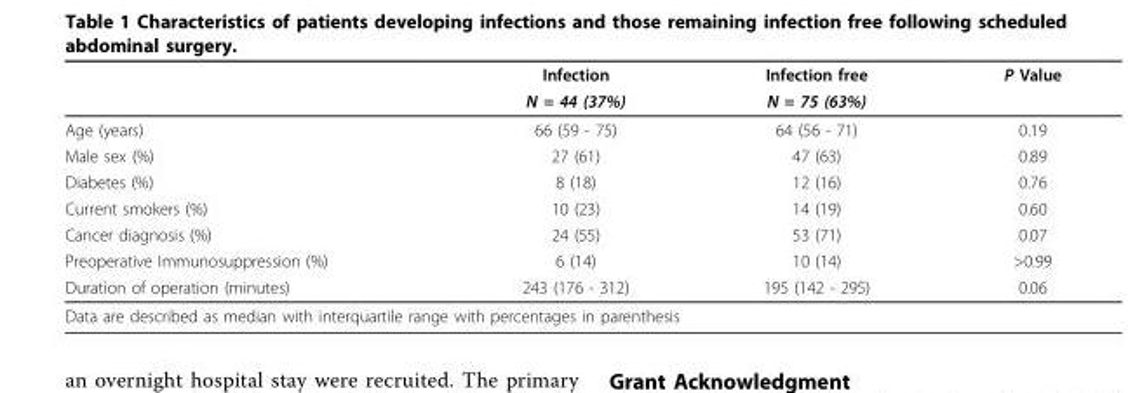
<table><thead><tr><td rowspan="2"></td><td rowspan="2">Infection N = 44 (37%)</td><td rowspan="2">Infection free N = 75 (63%)</td><td rowspan="2">P Value</td></tr><tr></tr></thead><tbody><tr><td>Age (years)</td><td>66 (59 - 75)</td><td>64 (56 - 71)</td><td>0.19</td></tr><tr><td>Male sex (%)</td><td>27 (61)</td><td>47 (63)</td><td>0.89</td></tr><tr><td>Diabetes (%)</td><td>8 (18)</td><td>12 (16)</td><td>0.76</td></tr><tr><td>Current smokers (%)</td><td>10 (23)</td><td>14 (19)</td><td>0.60</td></tr><tr><td>Cancer diagnosis (%)</td><td>24 (55)</td><td>53 (71)</td><td>0.07</td></tr><tr><td>Preoperative Immunosuppression (%)</td><td>6 (14)</td><td>10 (14)</td><td>&gt;0.99</td></tr><tr><td>Duration of operation (minutes)</td><td>243 (176 - 312)</td><td>195 (142 - 295)</td><td>0.06</td></tr><tr><td colspan="4">Data are described as median with interquartile range with percentages in parenthesis</td></tr></tbody></table>